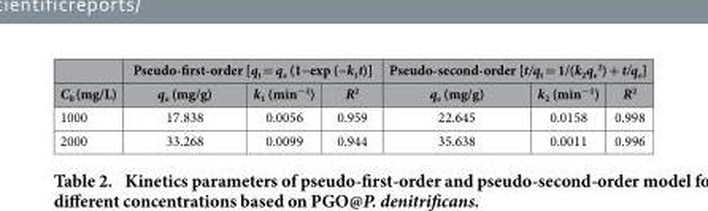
<table><thead><tr><td rowspan="2">C<sub>0</sub> (mg/L)</td><td colspan="3">Pseudo-first-order [q<sub>t</sub> = q<sub>e</sub> (1−exp (−k<sub>1</sub>t)]</td><td colspan="3">Pseudo-second-order [t/q<sub>t</sub> = 1/(k<sub>2</sub>q<sub>e</sub> <sup>2</sup>) + t/q<sub>e</sub>]</td></tr><tr><td>q<sub>e</sub> (mg/g)</td><td>k<sub>1</sub> (min<sup>−1</sup>)</td><td>R<sup>2</sup></td><td>q<sub>e</sub> (mg/g)</td><td>k<sub>2</sub> (min<sup>−1</sup>)</td><td>R<sup>2</sup></td></tr></thead><tbody><tr><td>1000</td><td>17.838</td><td>0.0056</td><td>0.959</td><td>22.645</td><td>0.0158</td><td>0.998</td></tr><tr><td>2000</td><td>33.268</td><td>0.0099</td><td>0.944</td><td>35.638</td><td>0.0011</td><td>0.996</td></tr></tbody></table>